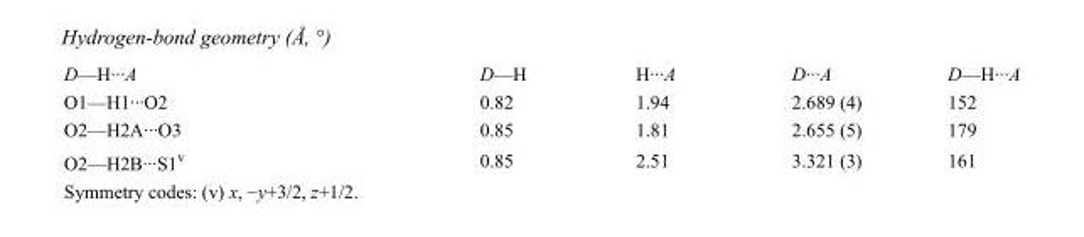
<table><tbody><tr><td>D—H···A</td><td>D—H</td><td>H···A</td><td>D···A</td><td>D—H···A</td></tr><tr><td>O1—H1···O2</td><td>0.82</td><td>1.94</td><td>2.689 (4)</td><td>152</td></tr><tr><td>O2—H2A···O3</td><td>0.85</td><td>1.81</td><td>2.655 (5)</td><td>179</td></tr><tr><td>O2—H2B···S1<sup>v</sup></td><td>0.85</td><td>2.51</td><td>3.321 (3)</td><td>161</td></tr></tbody></table>